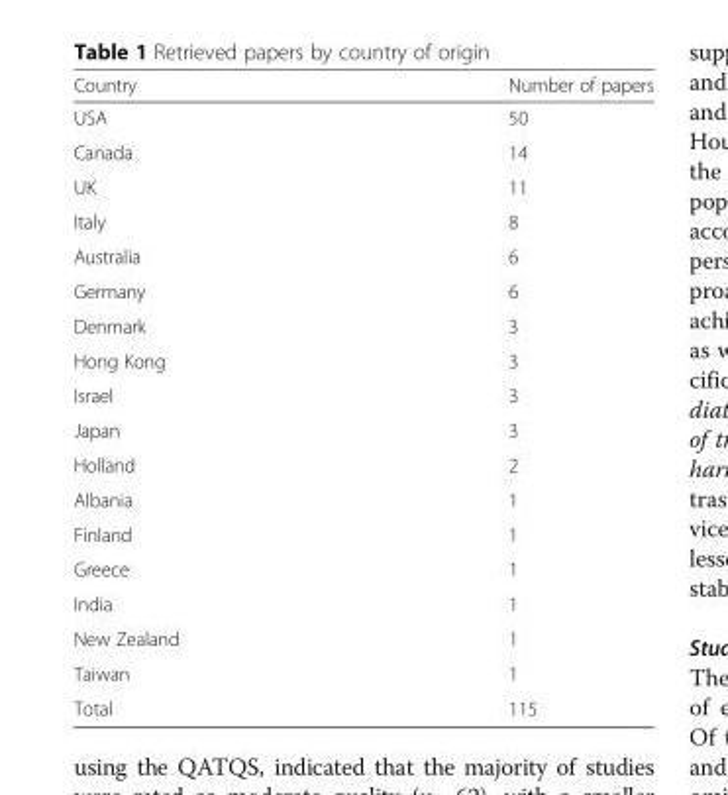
<table><thead><tr><td>Country</td><td>Number of papers</td></tr></thead><tbody><tr><td>USA</td><td>50</td></tr><tr><td>Canada</td><td>14</td></tr><tr><td>UK</td><td>11</td></tr><tr><td>Italy</td><td>8</td></tr><tr><td>Australia</td><td>6</td></tr><tr><td>Germany</td><td>6</td></tr><tr><td>Denmark</td><td>3</td></tr><tr><td>Hong Kong</td><td>3</td></tr><tr><td>Israel</td><td>3</td></tr><tr><td>Japan</td><td>3</td></tr><tr><td>Holland</td><td>2</td></tr><tr><td>Albania</td><td>1</td></tr><tr><td>Finland</td><td>1</td></tr><tr><td>Greece</td><td>1</td></tr><tr><td>India</td><td>1</td></tr><tr><td>New Zealand</td><td>1</td></tr><tr><td>Taiwan</td><td>1</td></tr><tr><td>Total</td><td>115</td></tr></tbody></table>